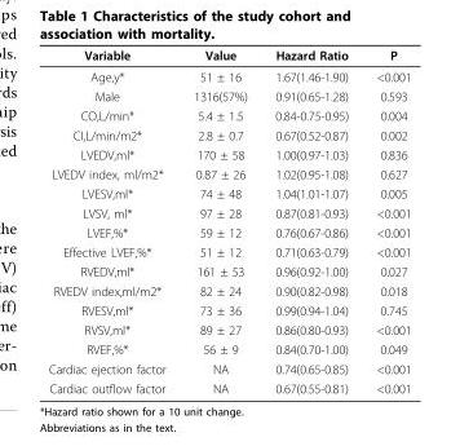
<table><thead><tr><td>Variable</td><td>Value</td><td>Hazard Ratio</td><td>P</td></tr></thead><tbody><tr><td>Age,y*</td><td>51 ± 16</td><td>1.67(1.46-1.90)</td><td>&lt;0.001</td></tr><tr><td>Male</td><td>1316(57%)</td><td>0.91(0.65-1.28)</td><td>0.593</td></tr><tr><td>CO,L/min*</td><td>5.4 ± 1.5</td><td>0.84-0.75-0.95)</td><td>0.004</td></tr><tr><td>CI,L/min/m2*</td><td>2.8 ± 0.7</td><td>0.67(0.52-0.87)</td><td>0.002</td></tr><tr><td>LVEDV,ml*</td><td>170 ± 58</td><td>1.00(0.97-1.03)</td><td>0.836</td></tr><tr><td>LVEDV index, ml/m2*</td><td>0.87 ± 26</td><td>1.02(0.95-1.08)</td><td>0.627</td></tr><tr><td>LVESV,ml*</td><td>74 ± 48</td><td>1.04(1.01-1.07)</td><td>0.005</td></tr><tr><td>LVSV, ml*</td><td>97 ± 28</td><td>0.87(0.81-0.93)</td><td>&lt;0.001</td></tr><tr><td>LVEF,%*</td><td>59 ± 12</td><td>0.76(0.67-0.86)</td><td>&lt;0.001</td></tr><tr><td>Effective LVEF,%*</td><td>51 ± 12</td><td>0.71(0.63-0.79)</td><td>&lt;0.001</td></tr><tr><td>RVEDV,ml*</td><td>161 ± 53</td><td>0.96(0.92-1.00)</td><td>0.027</td></tr><tr><td>RVEDV index,ml/m2*</td><td>82 ± 24</td><td>0.90(0.82-0.98)</td><td>0.018</td></tr><tr><td>RVESV,ml*</td><td>73 ± 36</td><td>0.99(0.94-1.04)</td><td>0.745</td></tr><tr><td>RVSV,ml*</td><td>89 ± 27</td><td>0.86(0.80-0.93)</td><td>&lt;0.001</td></tr><tr><td>RVEF,%*</td><td>56 ± 9</td><td>0.84(0.70-1.00)</td><td>0.049</td></tr><tr><td>Cardiac ejection factor</td><td>NA</td><td>0.74(0.65-0.85)</td><td>&lt;0.001</td></tr><tr><td>Cardiac outflow factor</td><td>NA</td><td>0.67(0.55-0.81)</td><td>&lt;0.001</td></tr></tbody></table>